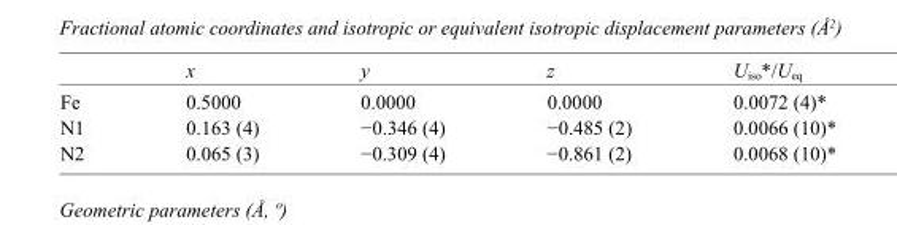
<table><thead><tr><td></td><td>x</td><td>y</td><td>z</td><td>U<sub>iso</sub>*/U<sub>eq</sub></td></tr></thead><tbody><tr><td>Fe</td><td>0.5000</td><td>0.0000</td><td>0.0000</td><td>0.0072 (4)*</td></tr><tr><td>N1</td><td>0.163 (4)</td><td>−0.346 (4)</td><td>−0.485 (2)</td><td>0.0066 (10)*</td></tr><tr><td>N2</td><td>0.065 (3)</td><td>−0.309 (4)</td><td>−0.861 (2)</td><td>0.0068 (10)*</td></tr></tbody></table>